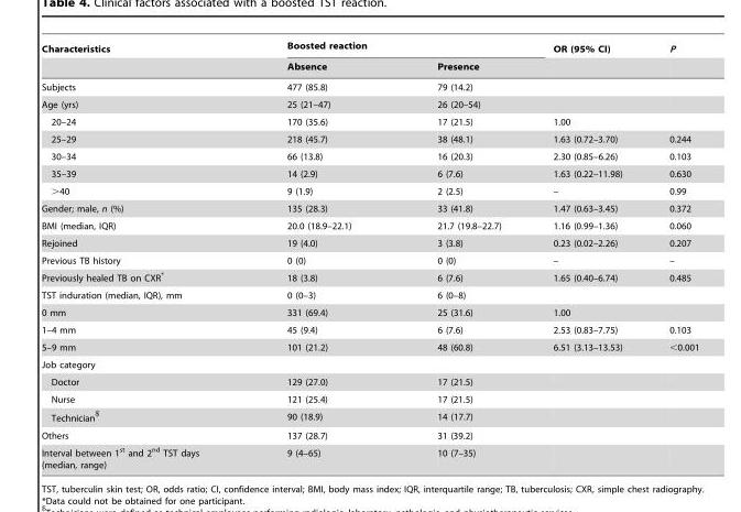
<table><thead><tr><td rowspan="2">Characteristics</td><td colspan="2">Boosted reaction</td><td rowspan="2">OR (95% CI)</td><td rowspan="2">P</td></tr><tr><td>Absence</td><td>Presence</td></tr></thead><tbody><tr><td>Subjects</td><td>477 (85.8)</td><td>79 (14.2)</td><td></td><td></td></tr><tr><td>Age (yrs)</td><td>25 (21–47)</td><td>26 (20–54)</td><td></td><td></td></tr><tr><td>20–24</td><td>170 (35.6)</td><td>17 (21.5)</td><td>1.00</td><td></td></tr><tr><td>25–29</td><td>218 (45.7)</td><td>38 (48.1)</td><td>1.63 (0.72–3.70)</td><td>0.244</td></tr><tr><td>30–34</td><td>66 (13.8)</td><td>16 (20.3)</td><td>2.30 (0.85–6.26)</td><td>0.103</td></tr><tr><td>35–39</td><td>14 (2.9)</td><td>6 (7.6)</td><td>1.63 (0.22–11.98)</td><td>0.630</td></tr><tr><td>&gt;40</td><td>9 (1.9)</td><td>2 (2.5)</td><td>–</td><td>0.99</td></tr><tr><td>Gender; male, n (%)</td><td>135 (28.3)</td><td>33 (41.8)</td><td>1.47 (0.63–3.45)</td><td>0.372</td></tr><tr><td>BMI (median, IQR)</td><td>20.0 (18.9–22.1)</td><td>21.7 (19.8–22.7)</td><td>1.16 (0.99–1.36)</td><td>0.060</td></tr><tr><td>Rejoined</td><td>19 (4.0)</td><td>3 (3.8)</td><td>0.23 (0.02–2.26)</td><td>0.207</td></tr><tr><td>Previous TB history</td><td>0 (0)</td><td>0 (0)</td><td>–</td><td>–</td></tr><tr><td>Previously healed TB on CXR*</td><td>18 (3.8)</td><td>6 (7.6)</td><td>1.65 (0.40–6.74)</td><td>0.485</td></tr><tr><td>TST induration (median, IQR), mm</td><td>0 (0–3)</td><td>6 (0–8)</td><td></td><td></td></tr><tr><td>0 mm</td><td>331 (69.4)</td><td>25 (31.6)</td><td>1.00</td><td></td></tr><tr><td>1–4 mm</td><td>45 (9.4)</td><td>6 (7.6)</td><td>2.53 (0.83–7.75)</td><td>0.103</td></tr><tr><td>5–9 mm</td><td>101 (21.2)</td><td>48 (60.8)</td><td>6.51 (3.13–13.53)</td><td>&lt;0.001</td></tr><tr><td colspan="5">Job category</td></tr><tr><td>Doctor</td><td>129 (27.0)</td><td>17 (21.5)</td><td></td><td></td></tr><tr><td>Nurse</td><td>121 (25.4)</td><td>17 (21.5)</td><td></td><td></td></tr><tr><td>Technician$</td><td>90 (18.9)</td><td>14 (17.7)</td><td></td><td></td></tr><tr><td>Others</td><td>137 (28.7)</td><td>31 (39.2)</td><td></td><td></td></tr><tr><td>Interval between 1<sup>st</sup> and 2<sup>nd</sup> TST days (median, range)</td><td>9 (4–65)</td><td>10 (7–35)</td><td></td><td></td></tr></tbody></table>